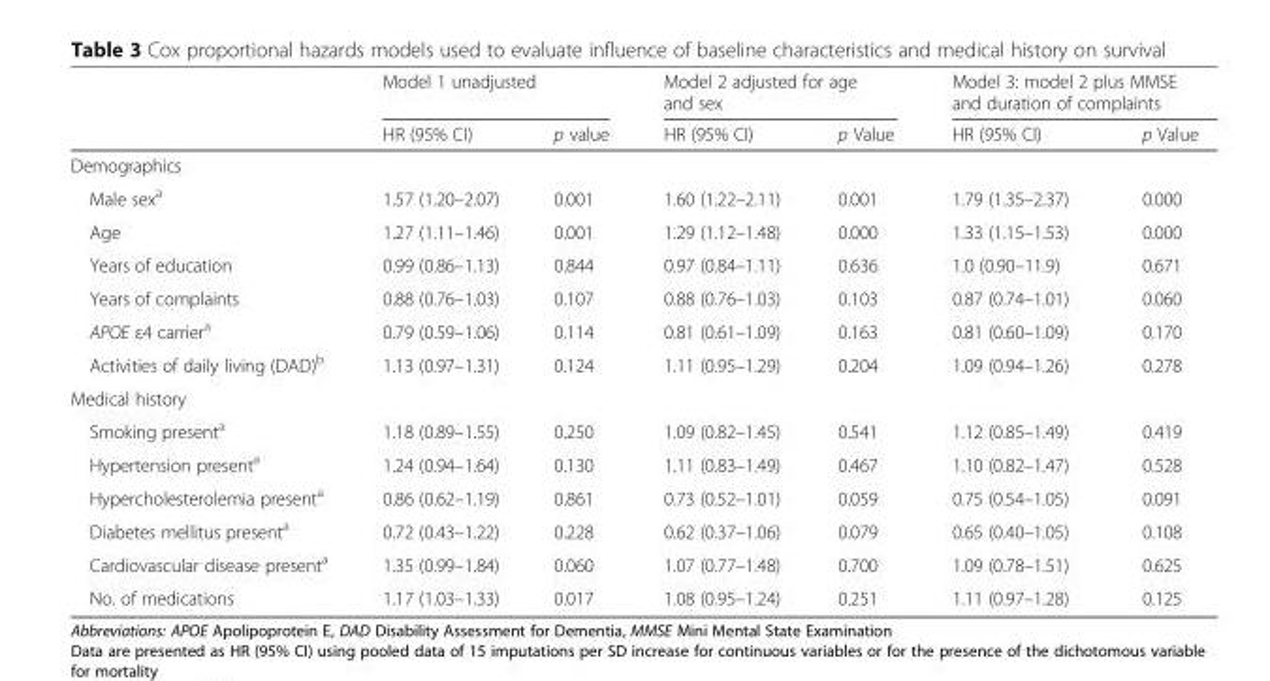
<table><thead><tr><td rowspan="2"></td><td colspan="2">Model 1 unadjusted</td><td colspan="2">Model 2 adjusted for age and sex</td><td colspan="2">Model 3: model 2 plus MMSE and duration of complaints</td></tr><tr><td>HR (95% CI)</td><td>p value</td><td>HR (95% CI)</td><td>p Value</td><td>HR (95% CI)</td><td>p Value</td></tr></thead><tbody><tr><td colspan="7">Demographics</td></tr><tr><td>Male sex<sup>a</sup></td><td>1.57 (1.20–2.07)</td><td>0.001</td><td>1.60 (1.22–2.11)</td><td>0.001</td><td>1.79 (1.35–2.37)</td><td>0.000</td></tr><tr><td>Age</td><td>1.27 (1.11–1.46)</td><td>0.001</td><td>1.29 (1.12–1.48)</td><td>0.000</td><td>1.33 (1.15–1.53)</td><td>0.000</td></tr><tr><td>Years of education</td><td>0.99 (0.86–1.13)</td><td>0.844</td><td>0.97 (0.84–1.11)</td><td>0.636</td><td>1.0 (0.90–11.9)</td><td>0.671</td></tr><tr><td>Years of complaints</td><td>0.88 (0.76–1.03)</td><td>0.107</td><td>0.88 (0.76–1.03)</td><td>0.103</td><td>0.87 (0.74–1.01)</td><td>0.060</td></tr><tr><td>APOE ε4 carrier<sup>a</sup></td><td>0.79 (0.59–1.06)</td><td>0.114</td><td>0.81 (0.61–1.09)</td><td>0.163</td><td>0.81 (0.60–1.09)</td><td>0.170</td></tr><tr><td>Activities of daily living (DAD)<sup>b</sup></td><td>1.13 (0.97–1.31)</td><td>0.124</td><td>1.11 (0.95–1.29)</td><td>0.204</td><td>1.09 (0.94–1.26)</td><td>0.278</td></tr><tr><td colspan="7">Medical history</td></tr><tr><td>Smoking present<sup>a</sup></td><td>1.18 (0.89–1.55)</td><td>0.250</td><td>1.09 (0.82–1.45)</td><td>0.541</td><td>1.12 (0.85–1.49)</td><td>0.419</td></tr><tr><td>Hypertension present<sup>a</sup></td><td>1.24 (0.94–1.64)</td><td>0.130</td><td>1.11 (0.83–1.49)</td><td>0.467</td><td>1.10 (0.82–1.47)</td><td>0.528</td></tr><tr><td>Hypercholesterolemia present<sup>a</sup></td><td>0.86 (0.62–1.19)</td><td>0.861</td><td>0.73 (0.52–1.01)</td><td>0.059</td><td>0.75 (0.54–1.05)</td><td>0.091</td></tr><tr><td>Diabetes mellitus present<sup>a</sup></td><td>0.72 (0.43–1.22)</td><td>0.228</td><td>0.62 (0.37–1.06)</td><td>0.079</td><td>0.65 (0.40–1.05)</td><td>0.108</td></tr><tr><td>Cardiovascular disease present<sup>a</sup></td><td>1.35 (0.99–1.84)</td><td>0.060</td><td>1.07 (0.77–1.48)</td><td>0.700</td><td>1.09 (0.78–1.51)</td><td>0.625</td></tr><tr><td>No. of medications</td><td>1.17 (1.03–1.33)</td><td>0.017</td><td>1.08 (0.95–1.24)</td><td>0.251</td><td>1.11 (0.97–1.28)</td><td>0.125</td></tr></tbody></table>